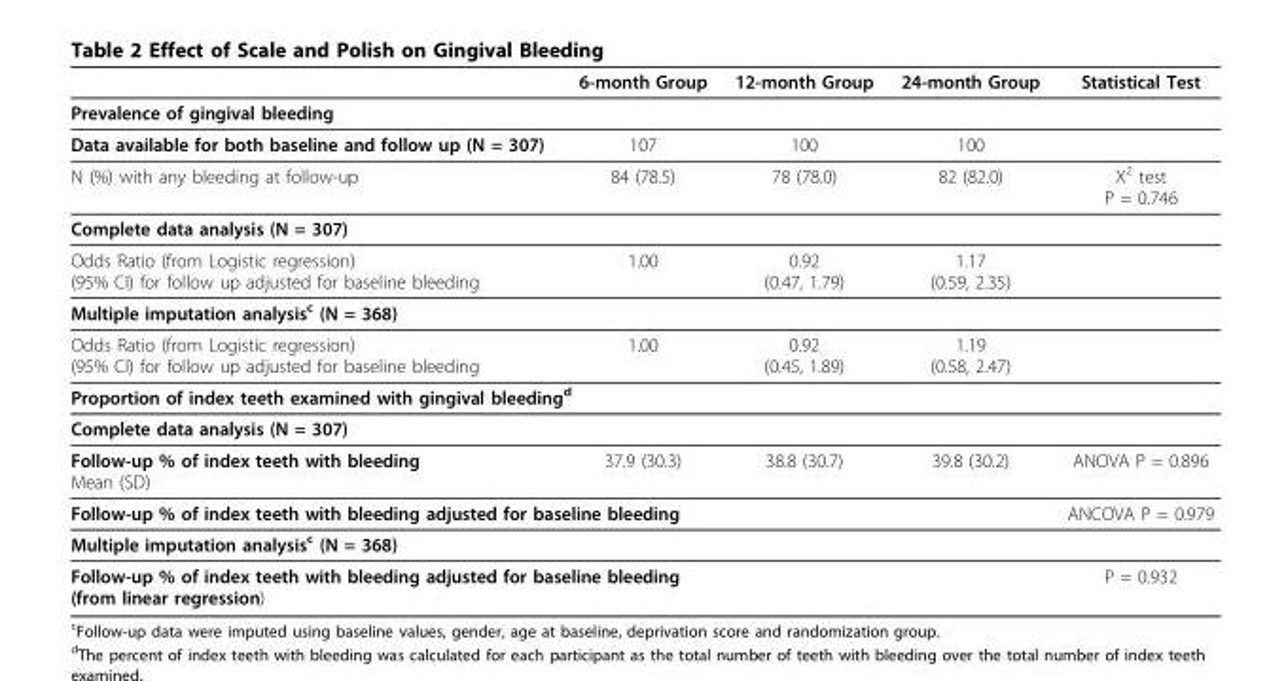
<table><thead><tr><td></td><td>6-month Group</td><td>12-month Group</td><td>24-month Group</td><td>Statistical Test</td></tr></thead><tbody><tr><td colspan="5">Prevalence of gingival bleeding</td></tr><tr><td>Data available for both baseline and follow up (N = 307)</td><td>107</td><td>100</td><td>100</td><td></td></tr><tr><td>N (%) with any bleeding at follow-up</td><td>84 (78.5)</td><td>78 (78.0)</td><td>82 (82.0)</td><td>Χ<sup>2</sup> test P = 0.746</td></tr><tr><td colspan="5">Complete data analysis (N = 307)</td></tr><tr><td>Odds Ratio (from Logistic regression) (95% CI) for follow up adjusted for baseline bleeding</td><td>1.00</td><td>0.92 (0.47, 1.79)</td><td>1.17 (0.59, 2.35)</td><td></td></tr><tr><td colspan="5">Multiple imputation analysis<sup>c</sup> (N = 368)</td></tr><tr><td>Odds Ratio (from Logistic regression) (95% CI) for follow up adjusted for baseline bleeding</td><td>1.00</td><td>0.92 (0.45, 1.89)</td><td>1.19 (0.58, 2.47)</td><td></td></tr><tr><td colspan="5">Proportion of index teeth examined with gingival bleeding<sup>d</sup></td></tr><tr><td colspan="5">Complete data analysis (N = 307)</td></tr><tr><td>Follow-up % of index teeth with bleeding Mean (SD)</td><td>37.9 (30.3)</td><td>38.8 (30.7)</td><td>39.8 (30.2)</td><td>ANOVA P = 0.896</td></tr><tr><td colspan="4">Follow-up % of index teeth with bleeding adjusted for baseline bleeding</td><td>ANCOVA P = 0.979</td></tr><tr><td colspan="5">Multiple imputation analysis<sup>c</sup> (N = 368)</td></tr><tr><td colspan="4">Follow-up % of index teeth with bleeding adjusted for baseline bleeding (from linear regression)</td><td>P = 0.932</td></tr></tbody></table>